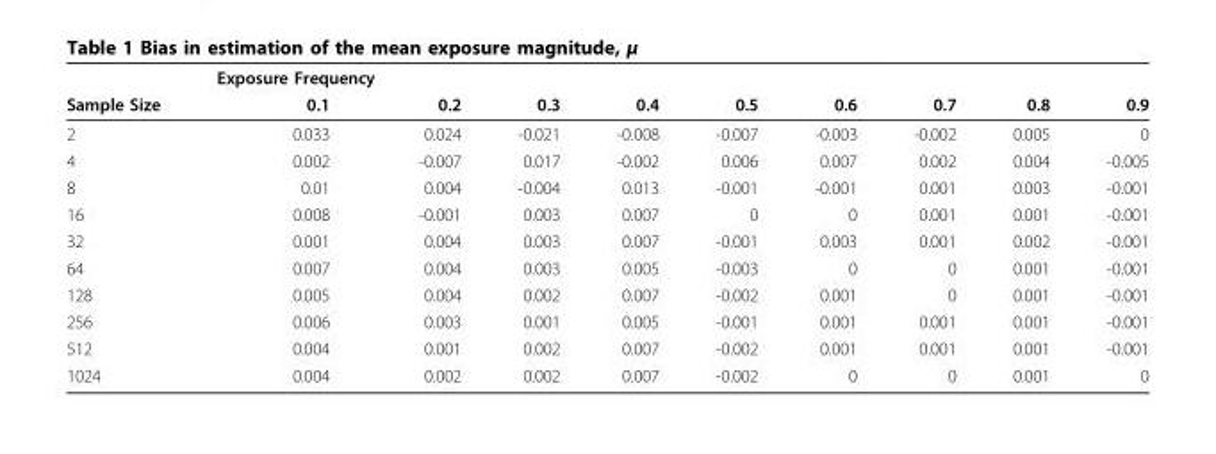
<table><thead><tr><td rowspan="2">Sample Size</td><td colspan="2">Exposure Frequency</td><td rowspan="2">0.3</td><td rowspan="2">0.4</td><td rowspan="2">0.5</td><td rowspan="2">0.6</td><td rowspan="2">0.7</td><td rowspan="2">0.8</td><td rowspan="2">0.9</td></tr><tr><td>0.1</td><td>0.2</td></tr></thead><tbody><tr><td>2</td><td>0.033</td><td>0.024</td><td>-0.021</td><td>-0.008</td><td>-0.007</td><td>-0.003</td><td>-0.002</td><td>0.005</td><td>0</td></tr><tr><td>4</td><td>0.002</td><td>-0.007</td><td>0.017</td><td>-0.002</td><td>0.006</td><td>0.007</td><td>0.002</td><td>0.004</td><td>-0.005</td></tr><tr><td>8</td><td>0.01</td><td>0.004</td><td>-0.004</td><td>0.013</td><td>-0.001</td><td>-0.001</td><td>0.001</td><td>0.003</td><td>-0.001</td></tr><tr><td>16</td><td>0.008</td><td>-0.001</td><td>0.003</td><td>0.007</td><td>0</td><td>0</td><td>0.001</td><td>0.001</td><td>-0.001</td></tr><tr><td>32</td><td>0.001</td><td>0.004</td><td>0.003</td><td>0.007</td><td>-0.001</td><td>0.003</td><td>0.001</td><td>0.002</td><td>-0.001</td></tr><tr><td>64</td><td>0.007</td><td>0.004</td><td>0.003</td><td>0.005</td><td>-0.003</td><td>0</td><td>0</td><td>0.001</td><td>-0.001</td></tr><tr><td>128</td><td>0.005</td><td>0.004</td><td>0.002</td><td>0.007</td><td>-0.002</td><td>0.001</td><td>0</td><td>0.001</td><td>-0.001</td></tr><tr><td>256</td><td>0.006</td><td>0.003</td><td>0.001</td><td>0.005</td><td>-0.001</td><td>0.001</td><td>0.001</td><td>0.001</td><td>-0.001</td></tr><tr><td>512</td><td>0.004</td><td>0.001</td><td>0.002</td><td>0.007</td><td>-0.002</td><td>0.001</td><td>0.001</td><td>0.001</td><td>-0.001</td></tr><tr><td>1024</td><td>0.004</td><td>0.002</td><td>0.002</td><td>0.007</td><td>-0.002</td><td>0</td><td>0</td><td>0.001</td><td>0</td></tr></tbody></table>